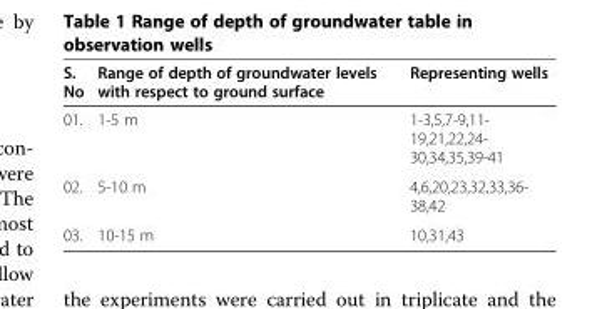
<table><thead><tr><td>S. No</td><td>Range of depth of groundwater levels with respect to ground surface</td><td>Representing wells</td></tr></thead><tbody><tr><td>01.</td><td>1-5 m</td><td>1-3,5,7-9,11- 19,21,22,24- 30,34,35,39-41</td></tr><tr><td>02.</td><td>5-10 m</td><td>4,6,20,23,32,33,36- 38,42</td></tr><tr><td>03.</td><td>10-15 m</td><td>10,31,43</td></tr></tbody></table>